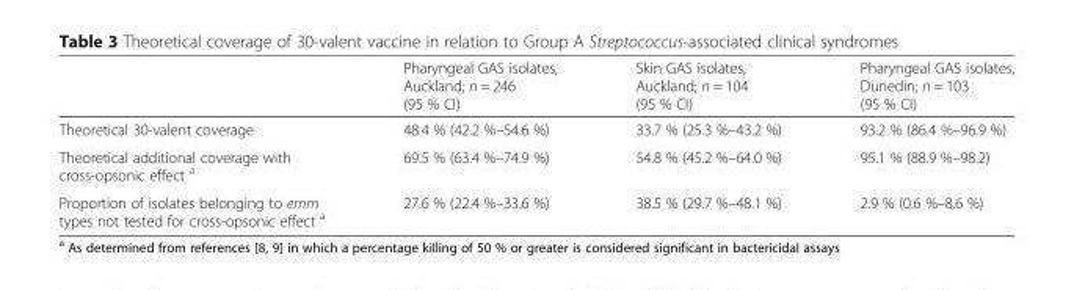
<table><thead><tr><td></td><td>Pharyngeal GAS isolates, Auckland; n = 246 (95 % CI)</td><td>Skin GAS isolates, Auckland; n = 104 (95 % CI)</td><td>Pharyngeal GAS isolates, Dunedin; n = 103 (95 % CI)</td></tr></thead><tbody><tr><td>Theoretical 30-valent coverage</td><td>48.4 % (42.2 %–54.6 %)</td><td>33.7 % (25.3 %–43.2 %)</td><td>93.2 % (86.4 %–96.9 %)</td></tr><tr><td>Theoretical additional coverage with cross-opsonic effect <sup>a</sup></td><td>69.5 % (63.4 %–74.9 %)</td><td>54.8 % (45.2 %–64.0 %)</td><td>95.1 % (88.9 %–98.2)</td></tr><tr><td>Proportion of isolates belonging to emm types not tested for cross-opsonic effect <sup>a</sup></td><td>27.6 % (22.4 %–33.6 %)</td><td>38.5 % (29.7 %–48.1 %)</td><td>2.9 % (0.6 %–8.6 %)</td></tr></tbody></table>